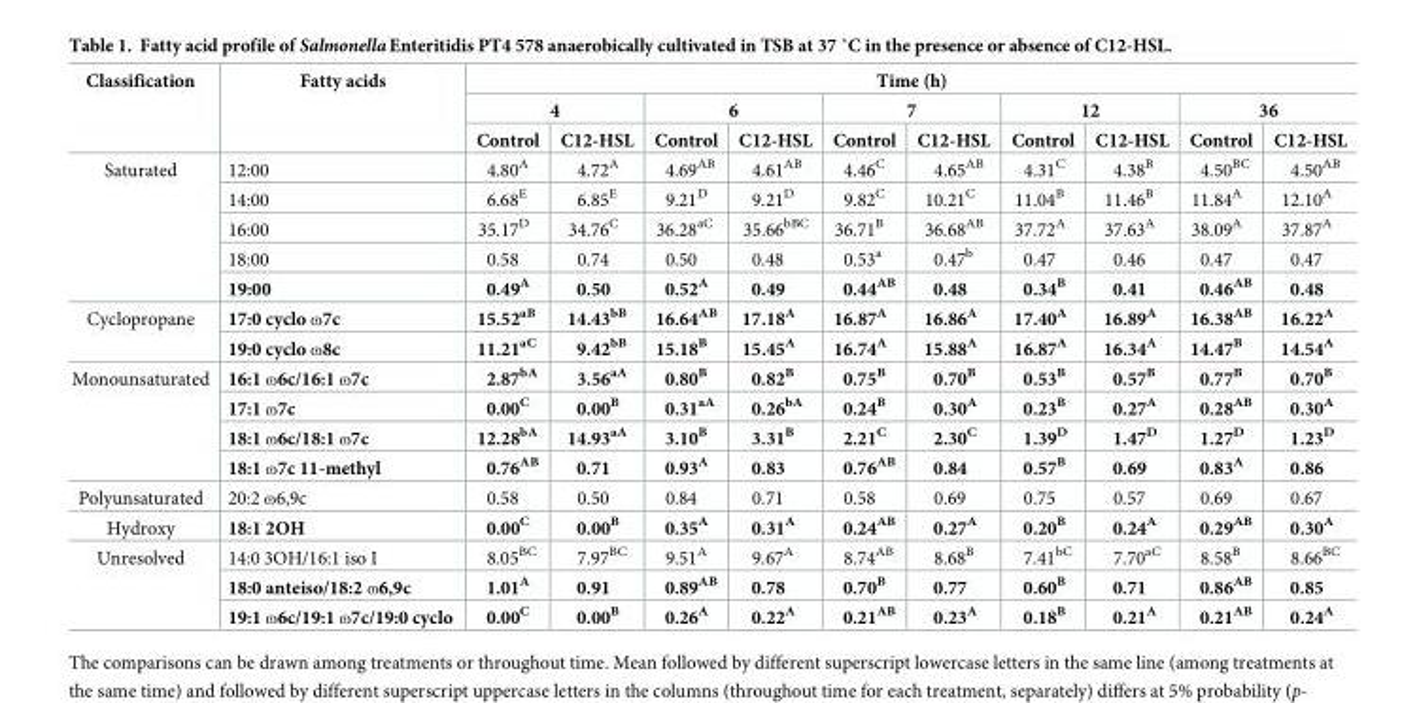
<table><thead><tr><td rowspan="3">Classification</td><td rowspan="3">Fatty acids</td><td colspan="10">Time (h)</td></tr><tr><td colspan="2">4</td><td colspan="2">6</td><td colspan="2">7</td><td colspan="2">12</td><td colspan="2">36</td></tr><tr><td>Control</td><td>C12-HSL</td><td>Control</td><td>C12-HSL</td><td>Control</td><td>C12-HSL</td><td>Control</td><td>C12-HSL</td><td>Control</td><td>C12-HSL</td></tr></thead><tbody><tr><td rowspan="5">Saturated</td><td>12:00</td><td>4.80<sup>A</sup></td><td>4.72<sup>A</sup></td><td>4.69<sup>AB</sup></td><td>4.61<sup>AB</sup></td><td>4.46<sup>C</sup></td><td>4.65<sup>AB</sup></td><td>4.31<sup>C</sup></td><td>4.38<sup>B</sup></td><td>4.50<sup>BC</sup></td><td>4.50<sup>AB</sup></td></tr><tr><td>14:00</td><td>6.68<sup>E</sup></td><td>6.85<sup>E</sup></td><td>9.21<sup>D</sup></td><td>9.21<sup>D</sup></td><td>9.82<sup>C</sup></td><td>10.21<sup>C</sup></td><td>11.04<sup>B</sup></td><td>11.46<sup>B</sup></td><td>11.84<sup>A</sup></td><td>12.10<sup>A</sup></td></tr><tr><td>16:00</td><td>35.17<sup>D</sup></td><td>34.76<sup>C</sup></td><td>36.28<sup>aC</sup></td><td>35.66<sup>bBC</sup></td><td>36.71<sup>B</sup></td><td>36.68<sup>AB</sup></td><td>37.72<sup>A</sup></td><td>37.63<sup>A</sup></td><td>38.09<sup>A</sup></td><td>37.87<sup>A</sup></td></tr><tr><td>18:00</td><td>0.58</td><td>0.74</td><td>0.50</td><td>0.48</td><td>0.53<sup>a</sup></td><td>0.47<sup>b</sup></td><td>0.47</td><td>0.46</td><td>0.47</td><td>0.47</td></tr><tr><td>19:00</td><td>0.49<sup>A</sup></td><td>0.50</td><td>0.52<sup>A</sup></td><td>0.49</td><td>0.44<sup>AB</sup></td><td>0.48</td><td>0.34<sup>B</sup></td><td>0.41</td><td>0.46<sup>AB</sup></td><td>0.48</td></tr><tr><td rowspan="2">Cyclopropane</td><td>17:0 cyclo ɷ7c</td><td>15.52<sup>aB</sup></td><td>14.43<sup>bB</sup></td><td>16.64<sup>AB</sup></td><td>17.18<sup>A</sup></td><td>16.87<sup>A</sup></td><td>16.86<sup>A</sup></td><td>17.40<sup>A</sup></td><td>16.89<sup>A</sup></td><td>16.38<sup>AB</sup></td><td>16.22<sup>A</sup></td></tr><tr><td>19:0 cyclo ɷ8c</td><td>11.21<sup>aC</sup></td><td>9.42<sup>bB</sup></td><td>15.18<sup>B</sup></td><td>15.45<sup>A</sup></td><td>16.74<sup>A</sup></td><td>15.88<sup>A</sup></td><td>16.87<sup>A</sup></td><td>16.34<sup>A</sup></td><td>14.47<sup>B</sup></td><td>14.54<sup>A</sup></td></tr><tr><td rowspan="4">Monounsaturated</td><td>16:1 ɷ6c/16:1 ɷ7c</td><td>2.87<sup>bA</sup></td><td>3.56<sup>aA</sup></td><td>0.80<sup>B</sup></td><td>0.82<sup>B</sup></td><td>0.75<sup>B</sup></td><td>0.70<sup>B</sup></td><td>0.53<sup>B</sup></td><td>0.57<sup>B</sup></td><td>0.77<sup>B</sup></td><td>0.70<sup>B</sup></td></tr><tr><td>17:1 ɷ7c</td><td>0.00<sup>C</sup></td><td>0.00<sup>B</sup></td><td>0.31<sup>aA</sup></td><td>0.26<sup>bA</sup></td><td>0.24<sup>B</sup></td><td>0.30<sup>A</sup></td><td>0.23<sup>B</sup></td><td>0.27<sup>A</sup></td><td>0.28<sup>AB</sup></td><td>0.30<sup>A</sup></td></tr><tr><td>18:1 ɷ6c/18:1 ɷ7c</td><td>12.28<sup>bA</sup></td><td>14.93<sup>aA</sup></td><td>3.10<sup>B</sup></td><td>3.31<sup>B</sup></td><td>2.21<sup>C</sup></td><td>2.30<sup>C</sup></td><td>1.39<sup>D</sup></td><td>1.47<sup>D</sup></td><td>1.27<sup>D</sup></td><td>1.23<sup>D</sup></td></tr><tr><td>18:1 ɷ7c 11-methyl</td><td>0.76<sup>AB</sup></td><td>0.71</td><td>0.93<sup>A</sup></td><td>0.83</td><td>0.76<sup>AB</sup></td><td>0.84</td><td>0.57<sup>B</sup></td><td>0.69</td><td>0.83<sup>A</sup></td><td>0.86</td></tr><tr><td>Polyunsaturated</td><td>20:2 ɷ6,9c</td><td>0.58</td><td>0.50</td><td>0.84</td><td>0.71</td><td>0.58</td><td>0.69</td><td>0.75</td><td>0.57</td><td>0.69</td><td>0.67</td></tr><tr><td>Hydroxy</td><td>18:1 2OH</td><td>0.00<sup>C</sup></td><td>0.00<sup>B</sup></td><td>0.35<sup>A</sup></td><td>0.31<sup>A</sup></td><td>0.24<sup>AB</sup></td><td>0.27<sup>A</sup></td><td>0.20<sup>B</sup></td><td>0.24<sup>A</sup></td><td>0.29<sup>AB</sup></td><td>0.30<sup>A</sup></td></tr><tr><td rowspan="3">Unresolved</td><td>14:0 3OH/16:1 iso I</td><td>8.05<sup>BC</sup></td><td>7.97<sup>BC</sup></td><td>9.51<sup>A</sup></td><td>9.67<sup>A</sup></td><td>8.74<sup>AB</sup></td><td>8.68<sup>B</sup></td><td>7.41<sup>bC</sup></td><td>7.70<sup>aC</sup></td><td>8.58<sup>B</sup></td><td>8.66<sup>BC</sup></td></tr><tr><td>18:0 anteiso/18:2 ɷ6,9c</td><td>1.01<sup>A</sup></td><td>0.91</td><td>0.89<sup>AB</sup></td><td>0.78</td><td>0.70<sup>B</sup></td><td>0.77</td><td>0.60<sup>B</sup></td><td>0.71</td><td>0.86<sup>AB</sup></td><td>0.85</td></tr><tr><td>19:1 ɷ6c/19:1 ɷ7c/19:0 cyclo</td><td>0.00<sup>C</sup></td><td>0.00<sup>B</sup></td><td>0.26<sup>A</sup></td><td>0.22<sup>A</sup></td><td>0.21<sup>AB</sup></td><td>0.23<sup>A</sup></td><td>0.18<sup>B</sup></td><td>0.21<sup>A</sup></td><td>0.21<sup>AB</sup></td><td>0.24<sup>A</sup></td></tr></tbody></table>